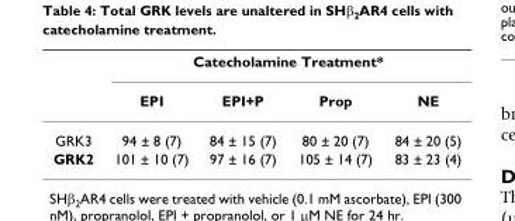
<table><thead><tr><td rowspan="2"></td><td colspan="4">Catecholamine Treatment*</td></tr><tr><td>EPI</td><td>EPI+P</td><td>Prop</td><td>NE</td></tr></thead><tbody><tr><td>GRK3</td><td>94 ± 8 (7)</td><td>84 ± 15 (7)</td><td>80 ± 20 (7)</td><td>84 ± 20 (5)</td></tr><tr><td>GRK2</td><td>101 ± 10 (7)</td><td>97 ± 16 (7)</td><td>105 ± 14 (7)</td><td>83 ± 23 (4)</td></tr></tbody></table>